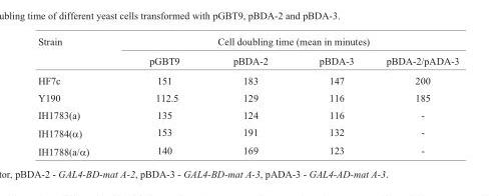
<table><thead><tr><td rowspan="2">Strain</td><td colspan="4">Cell doubling time (mean in minutes)</td></tr><tr><td>pGBT9</td><td>pBDA-2</td><td>pBDA-3</td><td>pBDA-2/pADA-3</td></tr></thead><tbody><tr><td>HF7c</td><td>151</td><td>183</td><td>147</td><td>200</td></tr><tr><td>Y190</td><td>112.5</td><td>129</td><td>116</td><td>185</td></tr><tr><td>IH1783(a)</td><td>135</td><td>124</td><td>116</td><td>-</td></tr><tr><td>IH1784(α)</td><td>153</td><td>191</td><td>132</td><td>-</td></tr><tr><td>IH1788(a/α)</td><td>140</td><td>169</td><td>123</td><td>-</td></tr></tbody></table>